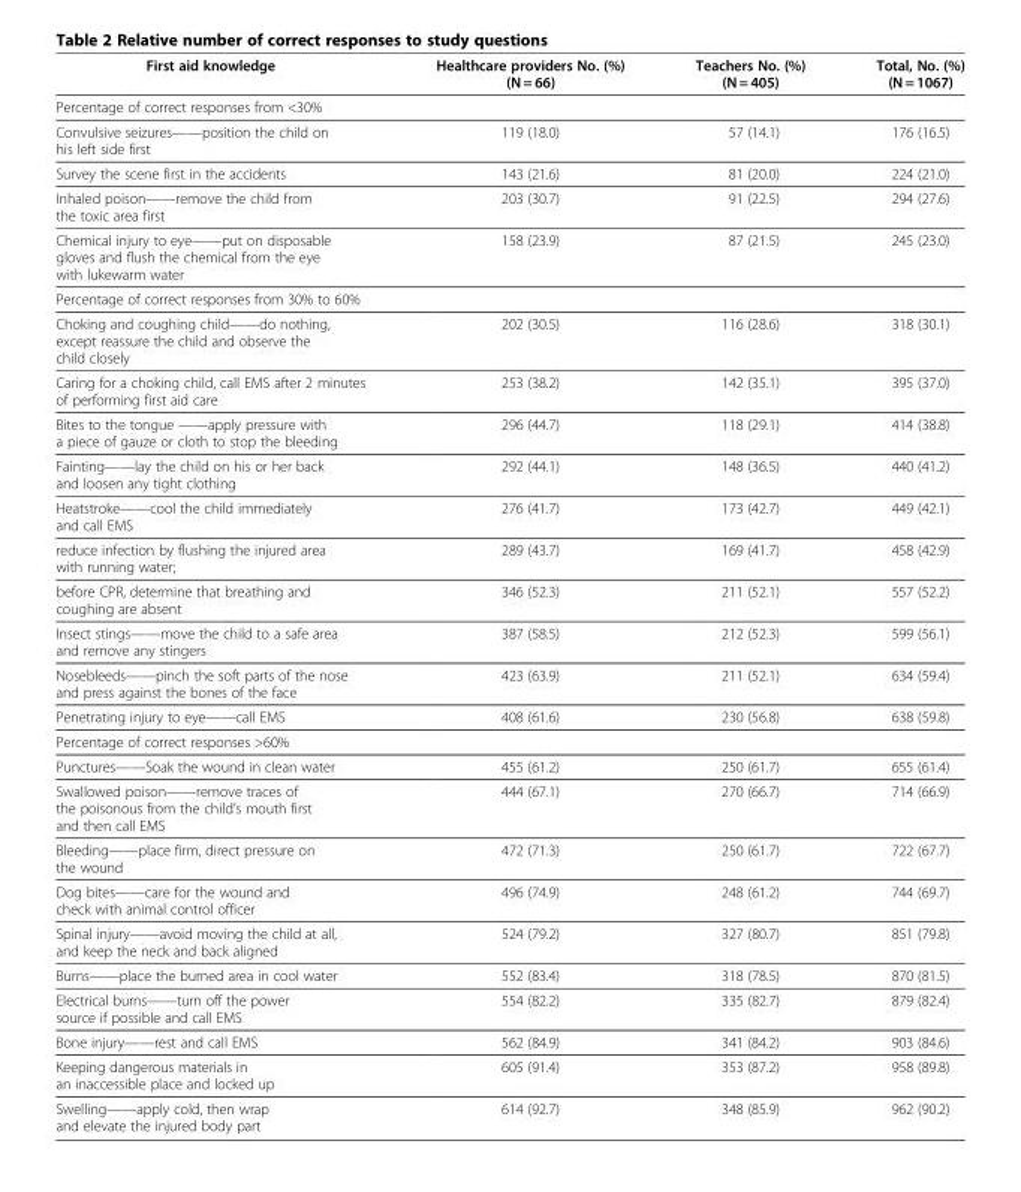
<table><thead><tr><td>First aid knowledge</td><td>Healthcare providers No. (%) (N = 66)</td><td>Teachers No. (%) (N = 405)</td><td>Total, No. (%) (N = 1067)</td></tr></thead><tbody><tr><td colspan="4">Percentage of correct responses from &lt;30%</td></tr><tr><td>Convulsive seizures——position the child on his left side first</td><td>119 (18.0)</td><td>57 (14.1)</td><td>176 (16.5)</td></tr><tr><td>Survey the scene first in the accidents</td><td>143 (21.6)</td><td>81 (20.0)</td><td>224 (21.0)</td></tr><tr><td>Inhaled poison——remove the child from the toxic area first</td><td>203 (30.7)</td><td>91 (22.5)</td><td>294 (27.6)</td></tr><tr><td>Chemical injury to eye——put on disposable gloves and flush the chemical from the eye with lukewarm water</td><td>158 (23.9)</td><td>87 (21.5)</td><td>245 (23.0)</td></tr><tr><td colspan="4">Percentage of correct responses from 30% to 60%</td></tr><tr><td>Choking and coughing child——do nothing, except reassure the child and observe the child closely</td><td>202 (30.5)</td><td>116 (28.6)</td><td>318 (30.1)</td></tr><tr><td>Caring for a choking child, call EMS after 2 minutes of performing first aid care</td><td>253 (38.2)</td><td>142 (35.1)</td><td>395 (37.0)</td></tr><tr><td>Bites to the tongue ——apply pressure with a piece of gauze or cloth to stop the bleeding</td><td>296 (44.7)</td><td>118 (29.1)</td><td>414 (38.8)</td></tr><tr><td>Fainting——lay the child on his or her back and loosen any tight clothing</td><td>292 (44.1)</td><td>148 (36.5)</td><td>440 (41.2)</td></tr><tr><td>Heatstroke——cool the child immediately and call EMS</td><td>276 (41.7)</td><td>173 (42.7)</td><td>449 (42.1)</td></tr><tr><td>reduce infection by flushing the injured area with running water;</td><td>289 (43.7)</td><td>169 (41.7)</td><td>458 (42.9)</td></tr><tr><td>before CPR, determine that breathing and coughing are absent</td><td>346 (52.3)</td><td>211 (52.1)</td><td>557 (52.2)</td></tr><tr><td>Insect stings——move the child to a safe area and remove any stingers</td><td>387 (58.5)</td><td>212 (52.3)</td><td>599 (56.1)</td></tr><tr><td>Nosebleeds——pinch the soft parts of the nose and press against the bones of the face</td><td>423 (63.9)</td><td>211 (52.1)</td><td>634 (59.4)</td></tr><tr><td>Penetrating injury to eye——call EMS</td><td>408 (61.6)</td><td>230 (56.8)</td><td>638 (59.8)</td></tr><tr><td colspan="4">Percentage of correct responses &gt;60%</td></tr><tr><td>Punctures——Soak the wound in clean water</td><td>455 (61.2)</td><td>250 (61.7)</td><td>655 (61.4)</td></tr><tr><td>Swallowed poison——remove traces of the poisonous from the child’s mouth first and then call EMS</td><td>444 (67.1)</td><td>270 (66.7)</td><td>714 (66.9)</td></tr><tr><td>Bleeding——place firm, direct pressure on the wound</td><td>472 (71.3)</td><td>250 (61.7)</td><td>722 (67.7)</td></tr><tr><td>Dog bites——care for the wound and check with animal control officer</td><td>496 (74.9)</td><td>248 (61.2)</td><td>744 (69.7)</td></tr><tr><td>Spinal injury——avoid moving the child at all, and keep the neck and back aligned</td><td>524 (79.2)</td><td>327 (80.7)</td><td>851 (79.8)</td></tr><tr><td>Burns——place the burned area in cool water</td><td>552 (83.4)</td><td>318 (78.5)</td><td>870 (81.5)</td></tr><tr><td>Electrical burns——turn off the power source if possible and call EMS</td><td>554 (82.2)</td><td>335 (82.7)</td><td>879 (82.4)</td></tr><tr><td>Bone injury——rest and call EMS</td><td>562 (84.9)</td><td>341 (84.2)</td><td>903 (84.6)</td></tr><tr><td>Keeping dangerous materials in an inaccessible place and locked up</td><td>605 (91.4)</td><td>353 (87.2)</td><td>958 (89.8)</td></tr><tr><td>Swelling——apply cold, then wrap and elevate the injured body part</td><td>614 (92.7)</td><td>348 (85.9)</td><td>962 (90.2)</td></tr></tbody></table>